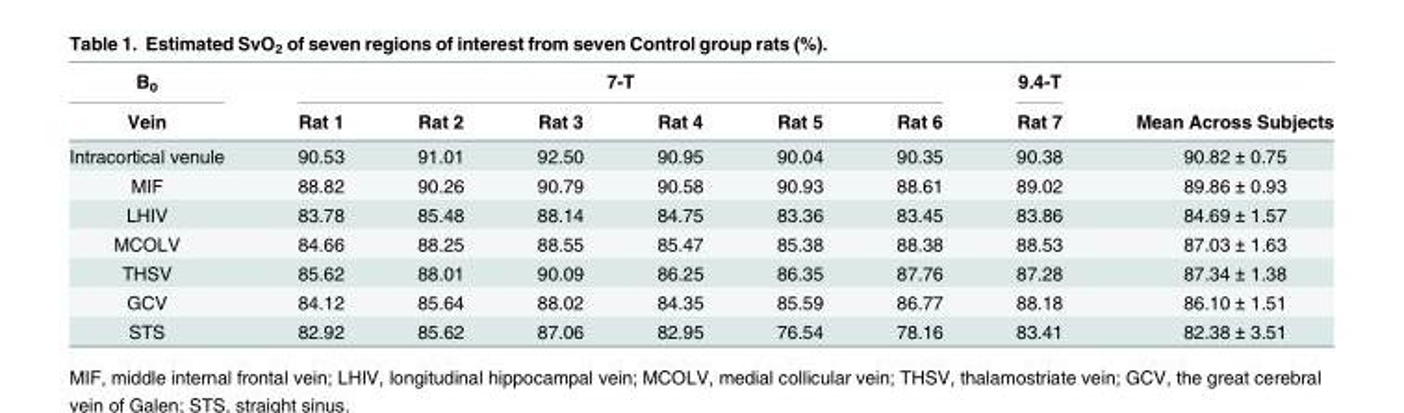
<table><thead><tr><td rowspan="2">B<sub>0</sub> Vein</td><td colspan="6">7-T</td><td rowspan="2">9.4-T Rat 7</td><td rowspan="2">Mean Across Subjects</td></tr><tr><td>Rat 1</td><td>Rat 2</td><td>Rat 3</td><td>Rat 4</td><td>Rat 5</td><td>Rat 6</td></tr></thead><tbody><tr><td>Intracortical venule</td><td>90.53</td><td>91.01</td><td>92.50</td><td>90.95</td><td>90.04</td><td>90.35</td><td>90.38</td><td>90.82 ± 0.75</td></tr><tr><td>MIF</td><td>88.82</td><td>90.26</td><td>90.79</td><td>90.58</td><td>90.93</td><td>88.61</td><td>89.02</td><td>89.86 ± 0.93</td></tr><tr><td>LHIV</td><td>83.78</td><td>85.48</td><td>88.14</td><td>84.75</td><td>83.36</td><td>83.45</td><td>83.86</td><td>84.69 ± 1.57</td></tr><tr><td>MCOLV</td><td>84.66</td><td>88.25</td><td>88.55</td><td>85.47</td><td>85.38</td><td>88.38</td><td>88.53</td><td>87.03 ± 1.63</td></tr><tr><td>THSV</td><td>85.62</td><td>88.01</td><td>90.09</td><td>86.25</td><td>86.35</td><td>87.76</td><td>87.28</td><td>87.34 ± 1.38</td></tr><tr><td>GCV</td><td>84.12</td><td>85.64</td><td>88.02</td><td>84.35</td><td>85.59</td><td>86.77</td><td>88.18</td><td>86.10 ± 1.51</td></tr><tr><td>STS</td><td>82.92</td><td>85.62</td><td>87.06</td><td>82.95</td><td>76.54</td><td>78.16</td><td>83.41</td><td>82.38 ± 3.51</td></tr></tbody></table>